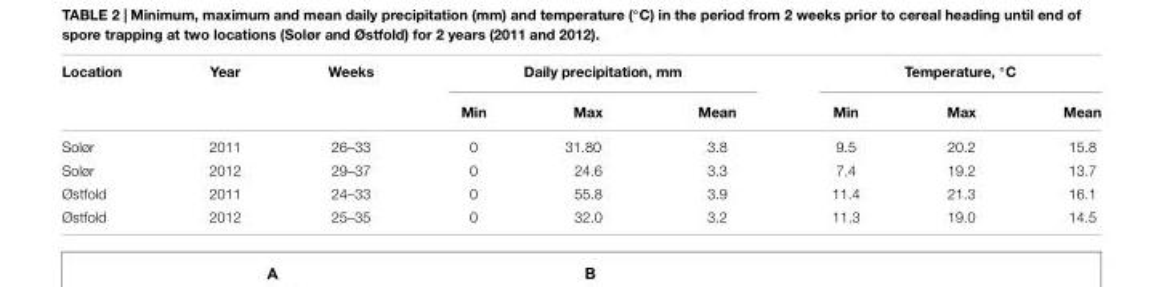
<table><thead><tr><td rowspan="2">Location</td><td rowspan="2">Year</td><td rowspan="2">Weeks</td><td colspan="3">Daily precipitation, mm</td><td colspan="3">Temperature, ◦C</td></tr><tr><td>Min</td><td>Max</td><td>Mean</td><td>Min</td><td>Max</td><td>Mean</td></tr></thead><tbody><tr><td>Solør</td><td>2011</td><td>26–33</td><td>0</td><td>31.80</td><td>3.8</td><td>9.5</td><td>20.2</td><td>15.8</td></tr><tr><td>Solør</td><td>2012</td><td>29–37</td><td>0</td><td>24.6</td><td>3.3</td><td>7.4</td><td>19.2</td><td>13.7</td></tr><tr><td>Østfold</td><td>2011</td><td>24–33</td><td>0</td><td>55.8</td><td>3.9</td><td>11.4</td><td>21.3</td><td>16.1</td></tr><tr><td>Østfold</td><td>2012</td><td>25–35</td><td>0</td><td>32.0</td><td>3.2</td><td>11.3</td><td>19.0</td><td>14.5</td></tr></tbody></table>